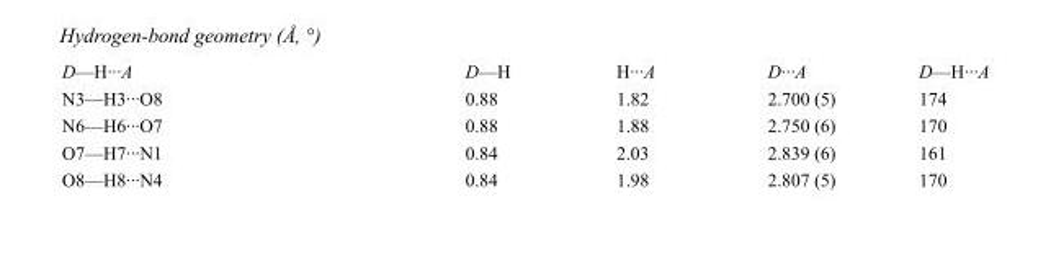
<table><tbody><tr><td>D—H···A</td><td>D—H</td><td>H···A</td><td>D···A</td><td>D—H···A</td></tr><tr><td>N3—H3···O8</td><td>0.88</td><td>1.82</td><td>2.700 (5)</td><td>174</td></tr><tr><td>N6—H6···O7</td><td>0.88</td><td>1.88</td><td>2.750 (6)</td><td>170</td></tr><tr><td>O7—H7···N1</td><td>0.84</td><td>2.03</td><td>2.839 (6)</td><td>161</td></tr><tr><td>O8—H8···N4</td><td>0.84</td><td>1.98</td><td>2.807 (5)</td><td>170</td></tr></tbody></table>